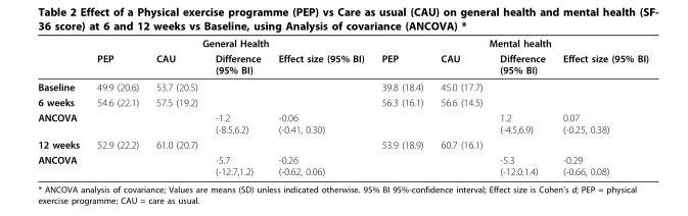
<table><thead><tr><td rowspan="2"></td><td colspan="4">General Health</td><td colspan="4">Mental health</td></tr><tr><td>PEP</td><td>CAU</td><td>Difference (95% BI)</td><td>Effect size (95% BI)</td><td>PEP</td><td>CAU</td><td>Difference (95% BI)</td><td>Effect size (95% BI)</td></tr></thead><tbody><tr><td>Baseline</td><td>49.9 (20.6)</td><td>53.7 (20.5)</td><td></td><td></td><td>39.8 (18.4)</td><td>45.0 (17.7)</td><td></td><td></td></tr><tr><td>6 weeks</td><td>54.6 (22.1)</td><td>57.5 (19.2)</td><td></td><td></td><td>56.3 (16.1)</td><td>56.6 (14.5)</td><td></td><td></td></tr><tr><td>ANCOVA</td><td></td><td></td><td>-1.2 (-8.5,6.2)</td><td>-0.06 (-0.41, 0.30)</td><td></td><td></td><td>1.2 (-4.5,6.9)</td><td>0.07 (-0.25, 0.38)</td></tr><tr><td>12 weeks</td><td>52.9 (22.2)</td><td>61.0 (20.7)</td><td></td><td></td><td>53.9 (18.9)</td><td>60.7 (16.1)</td><td></td><td></td></tr><tr><td>ANCOVA</td><td></td><td></td><td>-5.7 (-12.7,1.2)</td><td>-0.26 (-0.62, 0.06)</td><td></td><td></td><td>-5.3 (-12.0,1.4)</td><td>-0.29 (-0.66, 0.08)</td></tr></tbody></table>